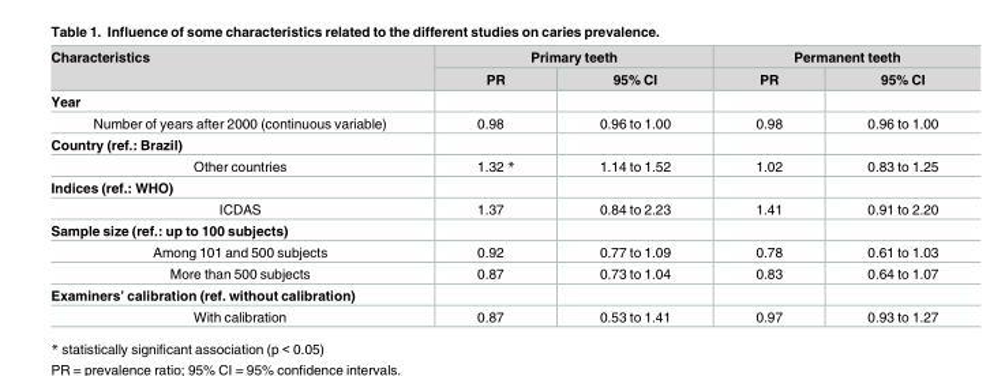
<table><thead><tr><td rowspan="2">Characteristics</td><td colspan="2">Primary teeth</td><td colspan="2">Permanent teeth</td></tr><tr><td>PR</td><td>95% CI</td><td>PR</td><td>95% CI</td></tr></thead><tbody><tr><td colspan="5">Year</td></tr><tr><td>Number of years after 2000 (continuous variable)</td><td>0.98</td><td>0.96 to 1.00</td><td>0.98</td><td>0.96 to 1.00</td></tr><tr><td colspan="5">Country (ref.: Brazil)</td></tr><tr><td>Other countries</td><td>1.32 *</td><td>1.14 to 1.52</td><td>1.02</td><td>0.83 to 1.25</td></tr><tr><td colspan="5">Indices (ref.: WHO)</td></tr><tr><td>ICDAS</td><td>1.37</td><td>0.84 to 2.23</td><td>1.41</td><td>0.91 to 2.20</td></tr><tr><td colspan="5">Sample size (ref.: up to 100 subjects)</td></tr><tr><td>Among 101 and 500 subjects</td><td>0.92</td><td>0.77 to 1.09</td><td>0.78</td><td>0.61 to 1.03</td></tr><tr><td>More than 500 subjects</td><td>0.87</td><td>0.73 to 1.04</td><td>0.83</td><td>0.64 to 1.07</td></tr><tr><td colspan="5">Examiners’ calibration (ref. without calibration)</td></tr><tr><td>With calibration</td><td>0.87</td><td>0.53 to 1.41</td><td>0.97</td><td>0.93 to 1.27</td></tr></tbody></table>